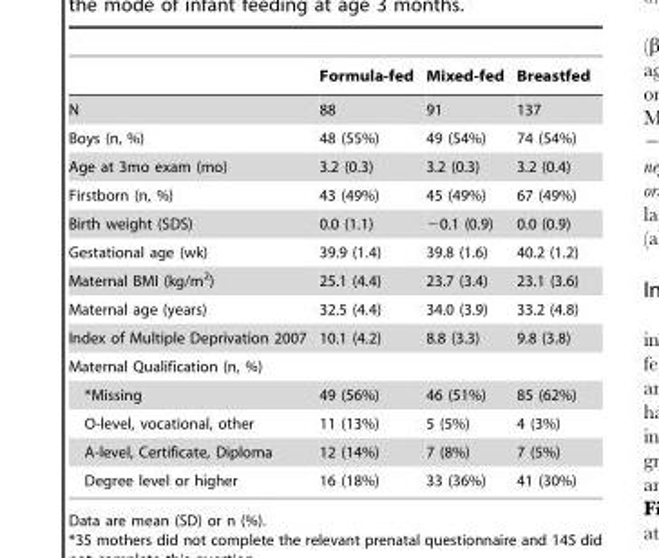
<table><thead><tr><td></td><td>Formula-fed</td><td>Mixed-fed</td><td>Breastfed</td></tr></thead><tbody><tr><td>N</td><td>88</td><td>91</td><td>137</td></tr><tr><td>Boys (n, %)</td><td>48 (55%)</td><td>49 (54%)</td><td>74 (54%)</td></tr><tr><td>Age at 3mo exam (mo)</td><td>3.2 (0.3)</td><td>3.2 (0.3)</td><td>3.2 (0.4)</td></tr><tr><td>Firstborn (n, %)</td><td>43 (49%)</td><td>45 (49%)</td><td>67 (49%)</td></tr><tr><td>Birth weight (SDS)</td><td>0.0 (1.1)</td><td>−0.1 (0.9)</td><td>0.0 (0.9)</td></tr><tr><td>Gestational age (wk)</td><td>39.9 (1.4)</td><td>39.8 (1.6)</td><td>40.2 (1.2)</td></tr><tr><td>Maternal BMI (kg/m<sup>2</sup>)</td><td>25.1 (4.4)</td><td>23.7 (3.4)</td><td>23.1 (3.6)</td></tr><tr><td>Maternal age (years)</td><td>32.5 (4.4)</td><td>34.0 (3.9)</td><td>33.2 (4.8)</td></tr><tr><td>Index of Multiple Deprivation 2007</td><td>10.1 (4.2)</td><td>8.8 (3.3)</td><td>9.8 (3.8)</td></tr><tr><td colspan="4">Maternal Qualification (n, %)</td></tr><tr><td>*Missing</td><td>49 (56%)</td><td>46 (51%)</td><td>85 (62%)</td></tr><tr><td>O-level, vocational, other</td><td>11 (13%)</td><td>5 (5%)</td><td>4 (3%)</td></tr><tr><td>A-level, Certificate, Diploma</td><td>12 (14%)</td><td>7 (8%)</td><td>7 (5%)</td></tr><tr><td>Degree level or higher</td><td>16 (18%)</td><td>33 (36%)</td><td>41 (30%)</td></tr></tbody></table>